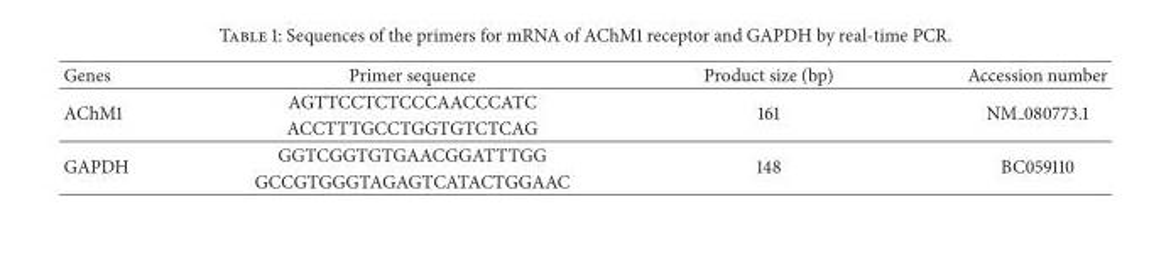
<table><thead><tr><td>Genes</td><td>Primer sequence</td><td>Product size (bp)</td><td>Accession number</td></tr></thead><tbody><tr><td rowspan="2">AChM1</td><td>AGTTCCTCTCCCAACCCATC</td><td rowspan="2">161</td><td rowspan="2">NM 080773.1</td></tr><tr><td>ACCTTTGCCTGGTGTCTCAG</td></tr><tr><td rowspan="2">GAPDH</td><td>GGTCGGTGTGAACGGATTTGG</td><td rowspan="2">148</td><td rowspan="2">BC059110</td></tr><tr><td>GCCGTGGGTAGAGTCATACTGGAAC</td></tr></tbody></table>